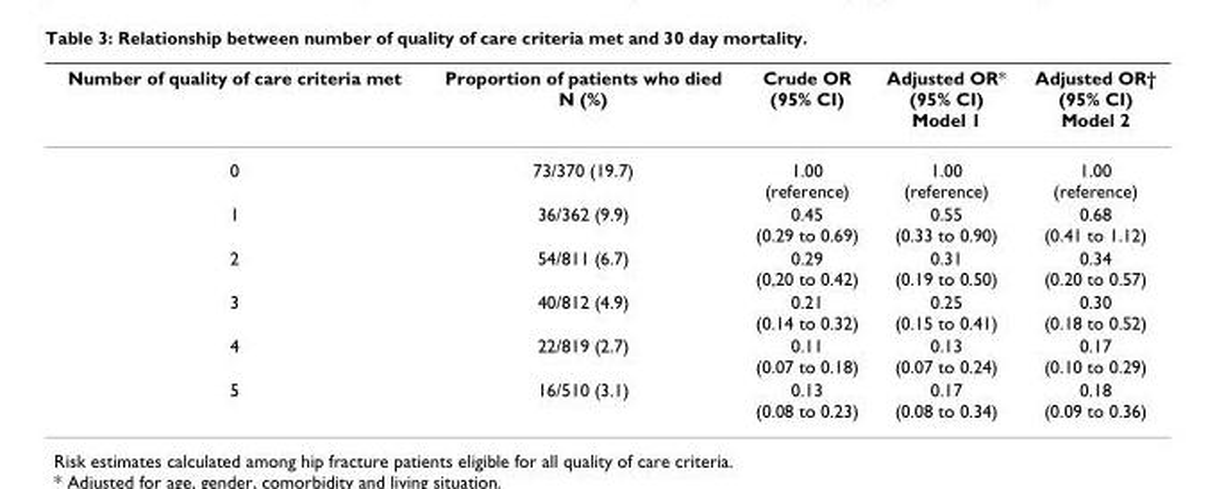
<table><thead><tr><td>Number of quality of care criteria met</td><td>Proportion of patients who died N (%)</td><td>Crude OR (95% CI)</td><td>Adjusted OR* (95% CI) Model 1</td><td>Adjusted OR† (95% CI) Model 2</td></tr></thead><tbody><tr><td>0</td><td>73/370 (19.7)</td><td>1.00 (reference)</td><td>1.00 (reference)</td><td>1.00 (reference)</td></tr><tr><td>1</td><td>36/362 (9.9)</td><td>0.45 (0.29 to 0.69)</td><td>0.55 (0.33 to 0.90)</td><td>0.68 (0.41 to 1.12)</td></tr><tr><td>2</td><td>54/811 (6.7)</td><td>0.29 (0,20 to 0.42)</td><td>0.31 (0.19 to 0.50)</td><td>0.34 (0.20 to 0.57)</td></tr><tr><td>3</td><td>40/812 (4.9)</td><td>0.21 (0.14 to 0.32)</td><td>0.25 (0.15 to 0.41)</td><td>0.30 (0.18 to 0.52)</td></tr><tr><td>4</td><td>22/819 (2.7)</td><td>0.11 (0.07 to 0.18)</td><td>0.13 (0.07 to 0.24)</td><td>0.17 (0.10 to 0.29)</td></tr><tr><td>5</td><td>16/510 (3.1)</td><td>0.13 (0.08 to 0.23)</td><td>0.17 (0.08 to 0.34)</td><td>0.18 (0.09 to 0.36)</td></tr></tbody></table>